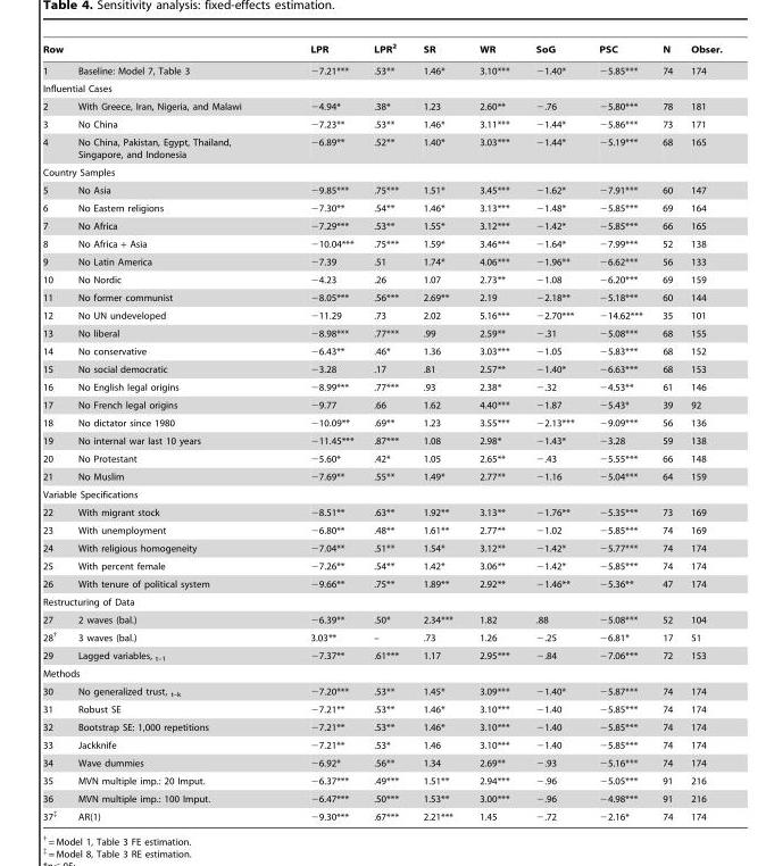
<table><thead><tr><td colspan="2">Row</td><td rowspan="2">LPR −7.21***</td><td rowspan="2">LPR2 .53**</td><td rowspan="2">SR 1.46*</td><td rowspan="2">WR 3.10***</td><td rowspan="2">SoG −1.40*</td><td rowspan="2">PSC −5.85***</td><td rowspan="2">N 74</td><td rowspan="2">Obser. 174</td></tr><tr><td>1</td><td>Baseline: Model 7, Table 3</td></tr></thead><tbody><tr><td colspan="10">Influential Cases</td></tr><tr><td>2</td><td>With Greece, Iran, Nigeria, and Malawi</td><td>−4.94*</td><td>.38*</td><td>1.23</td><td>2.60**</td><td>−.76</td><td>−5.80***</td><td>78</td><td>181</td></tr><tr><td>3</td><td>No China</td><td>−7.23**</td><td>.53**</td><td>1.46*</td><td>3.11***</td><td>−1.44*</td><td>−5.86***</td><td>73</td><td>171</td></tr><tr><td>4</td><td>No China, Pakistan, Egypt, Thailand, Singapore, and Indonesia</td><td>−6.89**</td><td>.52**</td><td>1.40*</td><td>3.03***</td><td>−1.44*</td><td>−5.19***</td><td>68</td><td>165</td></tr><tr><td colspan="10">Country Samples</td></tr><tr><td>5</td><td>No Asia</td><td>−9.85***</td><td>.75***</td><td>1.51*</td><td>3.45***</td><td>−1.62*</td><td>−7.91***</td><td>60</td><td>147</td></tr><tr><td>6</td><td>No Eastern religions</td><td>−7.30**</td><td>.54**</td><td>1.46*</td><td>3.13***</td><td>−1.48*</td><td>−5.85***</td><td>69</td><td>164</td></tr><tr><td>7</td><td>No Africa</td><td>−7.29***</td><td>.53**</td><td>1.55*</td><td>3.12***</td><td>−1.42*</td><td>−5.85***</td><td>66</td><td>165</td></tr><tr><td>8</td><td>No Africa + Asia</td><td>−10.04***</td><td>.75***</td><td>1.59*</td><td>3.46***</td><td>−1.64*</td><td>−7.99***</td><td>52</td><td>138</td></tr><tr><td>9</td><td>No Latin America</td><td>−7.39</td><td>.51</td><td>1.74*</td><td>4.06***</td><td>−1.96**</td><td>−6.62***</td><td>56</td><td>133</td></tr><tr><td>10</td><td>No Nordic</td><td>−4.23</td><td>.26</td><td>1.07</td><td>2.73**</td><td>−1.08</td><td>−6.20***</td><td>69</td><td>159</td></tr><tr><td>11</td><td>No former communist</td><td>−8.05***</td><td>.56***</td><td>2.69**</td><td>2.19</td><td>−2.18**</td><td>−5.18***</td><td>60</td><td>144</td></tr><tr><td>12</td><td>No UN undeveloped</td><td>−11.29</td><td>.73</td><td>2.02</td><td>5.16***</td><td>−2.70***</td><td>−14.62***</td><td>35</td><td>101</td></tr><tr><td>13</td><td>No liberal</td><td>−8.98***</td><td>.77***</td><td>.99</td><td>2.59**</td><td>−.31</td><td>−5.08***</td><td>68</td><td>155</td></tr><tr><td>14</td><td>No conservative</td><td>−6.43**</td><td>.46*</td><td>1.36</td><td>3.03***</td><td>−1.05</td><td>−5.83***</td><td>68</td><td>152</td></tr><tr><td>15</td><td>No social democratic</td><td>−3.28</td><td>.17</td><td>.81</td><td>2.57**</td><td>−1.40*</td><td>−6.63***</td><td>68</td><td>153</td></tr><tr><td>16</td><td>No English legal origins</td><td>−8.99***</td><td>.77***</td><td>.93</td><td>2.38*</td><td>−.32</td><td>−4.53**</td><td>61</td><td>146</td></tr><tr><td>17</td><td>No French legal origins</td><td>−9.77</td><td>.66</td><td>1.62</td><td>4.40***</td><td>−1.87</td><td>−5.43*</td><td>39</td><td>92</td></tr><tr><td>18</td><td>No dictator since 1980</td><td>−10.09**</td><td>.69**</td><td>1.23</td><td>3.55***</td><td>−2.13***</td><td>−9.09***</td><td>56</td><td>136</td></tr><tr><td>19</td><td>No internal war last 10 years</td><td>−11.45***</td><td>.87***</td><td>1.08</td><td>2.98*</td><td>−1.43*</td><td>−3.28</td><td>59</td><td>138</td></tr><tr><td>20</td><td>No Protestant</td><td>−5.60*</td><td>.42*</td><td>1.05</td><td>2.65**</td><td>−.43</td><td>−5.55***</td><td>66</td><td>148</td></tr><tr><td>21</td><td>No Muslim</td><td>−7.69**</td><td>.55**</td><td>1.49*</td><td>2.77**</td><td>−1.16</td><td>−5.04***</td><td>64</td><td>159</td></tr><tr><td colspan="10">Variable Specifications</td></tr><tr><td>22</td><td>With migrant stock</td><td>−8.51**</td><td>.63**</td><td>1.92**</td><td>3.13**</td><td>−1.76**</td><td>−5.35***</td><td>73</td><td>169</td></tr><tr><td>23</td><td>With unemployment</td><td>−6.80**</td><td>.48**</td><td>1.61**</td><td>2.77**</td><td>−1.02</td><td>−5.85***</td><td>74</td><td>169</td></tr><tr><td>24</td><td>With religious homogeneity</td><td>−7.04**</td><td>.51**</td><td>1.54*</td><td>3.12**</td><td>−1.42*</td><td>−5.77***</td><td>74</td><td>174</td></tr><tr><td>25</td><td>With percent female</td><td>−7.26**</td><td>.54**</td><td>1.42*</td><td>3.06**</td><td>−1.42*</td><td>−5.85***</td><td>74</td><td>174</td></tr><tr><td>26</td><td>With tenure of political system</td><td>−9.66**</td><td>.75**</td><td>1.89**</td><td>2.92**</td><td>−1.46**</td><td>−5.36**</td><td>47</td><td>174</td></tr><tr><td colspan="10">Restructuring of Data</td></tr><tr><td>27</td><td>2 waves (bal.)</td><td>−6.39**</td><td>.50*</td><td>2.34***</td><td>1.82</td><td>.88</td><td>−5.08***</td><td>52</td><td>104</td></tr><tr><td>28†</td><td>3 waves (bal.)</td><td>3.03**</td><td>–</td><td>.73</td><td>1.26</td><td>−.25</td><td>−6.81*</td><td>17</td><td>51</td></tr><tr><td>29</td><td>Lagged variables, <sub>t–1</sub></td><td>−7.37**</td><td>.61***</td><td>1.17</td><td>2.95***</td><td>−.84</td><td>−7.06***</td><td>72</td><td>153</td></tr><tr><td colspan="10">Methods</td></tr><tr><td>30</td><td>No generalized trust, <sub>t–k</sub></td><td>−7.20***</td><td>.53**</td><td>1.45*</td><td>3.09***</td><td>−1.40*</td><td>−5.87***</td><td>74</td><td>174</td></tr><tr><td>31</td><td>Robust SE</td><td>−7.21**</td><td>.53**</td><td>1.46*</td><td>3.10***</td><td>−1.40</td><td>−5.85***</td><td>74</td><td>174</td></tr><tr><td>32</td><td>Bootstrap SE: 1,000 repetitions</td><td>−7.21**</td><td>.53**</td><td>1.46*</td><td>3.10***</td><td>−1.40</td><td>−5.85***</td><td>74</td><td>174</td></tr><tr><td>33</td><td>Jackknife</td><td>−7.21**</td><td>.53*</td><td>1.46</td><td>3.10***</td><td>−1.40</td><td>−5.85***</td><td>74</td><td>174</td></tr><tr><td>34</td><td>Wave dummies</td><td>−6.92*</td><td>.56**</td><td>1.34</td><td>2.69**</td><td>−.93</td><td>−5.16***</td><td>74</td><td>174</td></tr><tr><td>35</td><td>MVN multiple imp.: 20 Imput.</td><td>−6.37***</td><td>.49***</td><td>1.51**</td><td>2.94***</td><td>−.96</td><td>−5.05***</td><td>91</td><td>216</td></tr><tr><td>36</td><td>MVN multiple imp.: 100 Imput.</td><td>−6.47***</td><td>.50***</td><td>1.53**</td><td>3.00***</td><td>−.96</td><td>−4.98***</td><td>91</td><td>216</td></tr><tr><td>37‡</td><td>AR(1)</td><td>−9.30***</td><td>.67***</td><td>2.21***</td><td>1.45</td><td>−.72</td><td>−2.16*</td><td>74</td><td>174</td></tr></tbody></table>